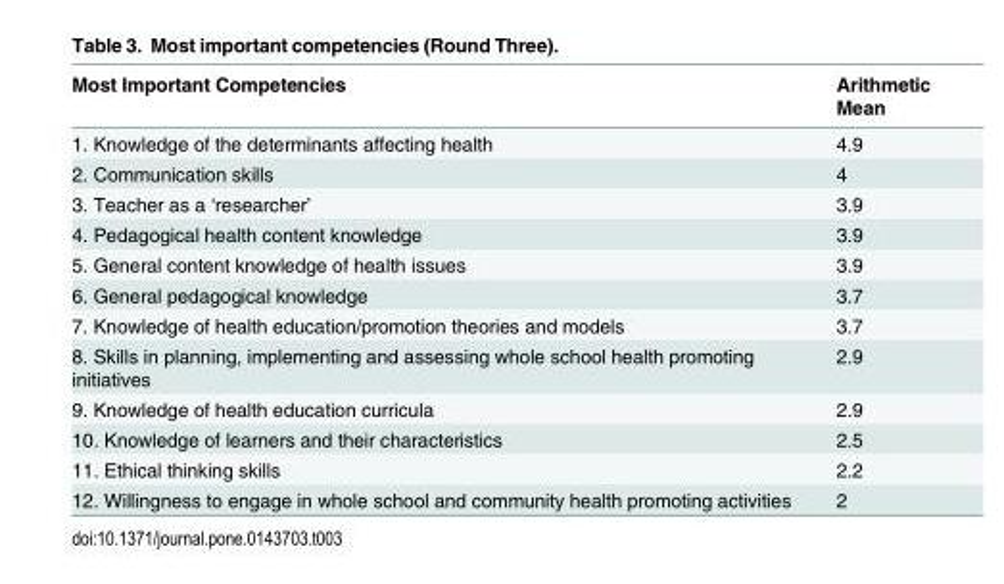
<table><thead><tr><td>Most Important Competencies</td><td>Arithmetic Mean</td></tr></thead><tbody><tr><td>1. Knowledge of the determinants affecting health</td><td>4.9</td></tr><tr><td>2. Communication skills</td><td>4</td></tr><tr><td>3. Teacher as a ‘researcher’</td><td>3.9</td></tr><tr><td>4. Pedagogical health content knowledge</td><td>3.9</td></tr><tr><td>5. General content knowledge of health issues</td><td>3.9</td></tr><tr><td>6. General pedagogical knowledge</td><td>3.7</td></tr><tr><td>7. Knowledge of health education/promotion theories and models</td><td>3.7</td></tr><tr><td>8. Skills in planning, implementing and assessing whole school health promoting initiatives</td><td>2.9</td></tr><tr><td>9. Knowledge of health education curricula</td><td>2.9</td></tr><tr><td>10. Knowledge of learners and their characteristics</td><td>2.5</td></tr><tr><td>11. Ethical thinking skills</td><td>2.2</td></tr><tr><td>12. Willingness to engage in whole school and community health promoting activities</td><td>2</td></tr></tbody></table>